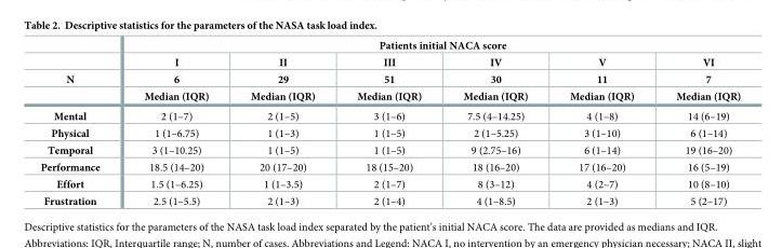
<table><thead><tr><td rowspan="4">N</td><td colspan="6">Patients initial NACA score</td></tr><tr><td rowspan="3">I 6 Median (IQR)</td><td rowspan="3">II 29 Median (IQR)</td><td rowspan="3">III 51 Median (IQR)</td><td rowspan="3">IV 30 Median (IQR)</td><td rowspan="3">V 11 Median (IQR)</td><td rowspan="3">VI 7 Median (IQR)</td></tr><tr></tr><tr></tr></thead><tbody><tr><td>Mental</td><td>2 (1–7)</td><td>2 (1–5)</td><td>3 (1–6)</td><td>7.5 (4–14.25)</td><td>4 (1–8)</td><td>14 (6–19)</td></tr><tr><td>Physical</td><td>1 (1–6.75)</td><td>1 (1–3)</td><td>1 (1–5)</td><td>2 (1–5.25)</td><td>3 (1–10)</td><td>6 (1–14)</td></tr><tr><td>Temporal</td><td>3 (1–10.25)</td><td>1 (1–5)</td><td>1 (1–5)</td><td>9 (2.75–16)</td><td>6 (1–14)</td><td>19 (16–20)</td></tr><tr><td>Performance</td><td>18.5 (14–20)</td><td>20 (17–20)</td><td>18 (15–20)</td><td>18 (16–20)</td><td>17 (16–20)</td><td>16 (5–19)</td></tr><tr><td>Effort</td><td>1.5 (1–6.25)</td><td>1 (1–3.5)</td><td>2 (1–7)</td><td>8 (3–12)</td><td>4 (2–7)</td><td>10 (8–10)</td></tr><tr><td>Frustration</td><td>2.5 (1–5.5)</td><td>2 (1–3)</td><td>2 (1–4)</td><td>4 (1–8.5)</td><td>2 (1–3)</td><td>5 (2–17)</td></tr></tbody></table>